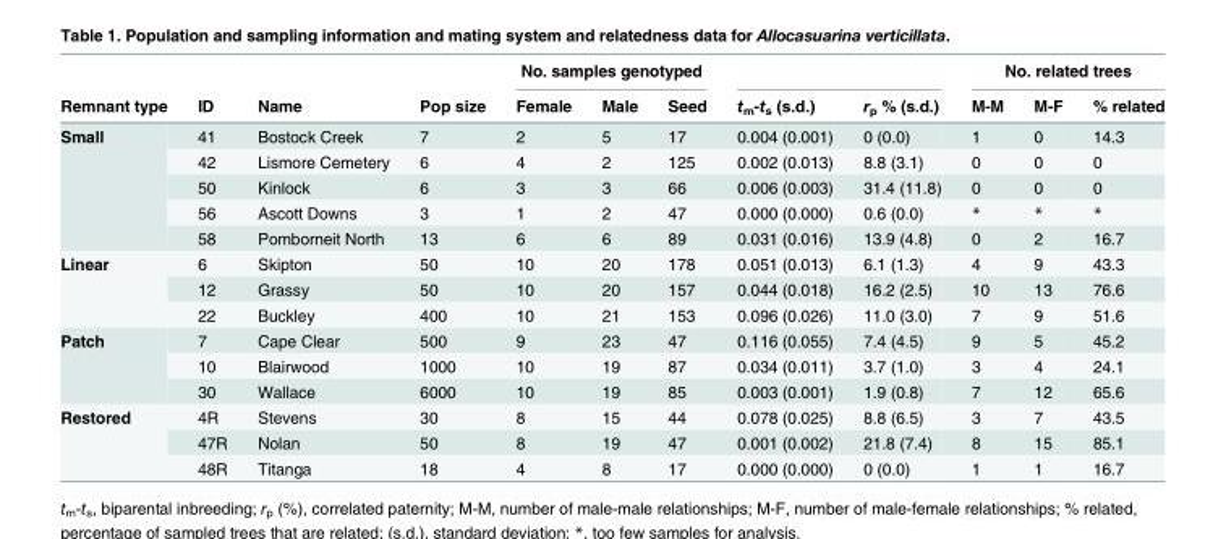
<table><thead><tr><td rowspan="2">Remnant type</td><td rowspan="2">ID</td><td rowspan="2">Name</td><td rowspan="2">Pop size</td><td colspan="3">No. samples genotyped</td><td rowspan="2">t<sub>m</sub>-t<sub>s</sub> (s.d.)</td><td rowspan="2">r<sub>p</sub> % (s.d.)</td><td colspan="3">No. related trees</td></tr><tr><td>Female</td><td>Male</td><td>Seed</td><td>M-M</td><td>M-F</td><td>% related</td></tr></thead><tbody><tr><td rowspan="5">Small</td><td>41</td><td>Bostock Creek</td><td>7</td><td>2</td><td>5</td><td>17</td><td>0.004 (0.001)</td><td>0 (0.0)</td><td>1</td><td>0</td><td>14.3</td></tr><tr><td>42</td><td>Lismore Cemetery</td><td>6</td><td>4</td><td>2</td><td>125</td><td>0.002 (0.013)</td><td>8.8 (3.1)</td><td>0</td><td>0</td><td>0</td></tr><tr><td>50</td><td>Kinlock</td><td>6</td><td>3</td><td>3</td><td>66</td><td>0.006 (0.003)</td><td>31.4 (11.8)</td><td>0</td><td>0</td><td>0</td></tr><tr><td>56</td><td>Ascott Downs</td><td>3</td><td>1</td><td>2</td><td>47</td><td>0.000 (0.000)</td><td>0.6 (0.0)</td><td>*</td><td>*</td><td>*</td></tr><tr><td>58</td><td>Pomborneit North</td><td>13</td><td>6</td><td>6</td><td>89</td><td>0.031 (0.016)</td><td>13.9 (4.8)</td><td>0</td><td>2</td><td>16.7</td></tr><tr><td rowspan="3">Linear</td><td>6</td><td>Skipton</td><td>50</td><td>10</td><td>20</td><td>178</td><td>0.051 (0.013)</td><td>6.1 (1.3)</td><td>4</td><td>9</td><td>43.3</td></tr><tr><td>12</td><td>Grassy</td><td>50</td><td>10</td><td>20</td><td>157</td><td>0.044 (0.018)</td><td>16.2 (2.5)</td><td>10</td><td>13</td><td>76.6</td></tr><tr><td>22</td><td>Buckley</td><td>400</td><td>10</td><td>21</td><td>153</td><td>0.096 (0.026)</td><td>11.0 (3.0)</td><td>7</td><td>9</td><td>51.6</td></tr><tr><td rowspan="3">Patch</td><td>7</td><td>Cape Clear</td><td>500</td><td>9</td><td>23</td><td>47</td><td>0.116 (0.055)</td><td>7.4 (4.5)</td><td>9</td><td>5</td><td>45.2</td></tr><tr><td>10</td><td>Blairwood</td><td>1000</td><td>10</td><td>19</td><td>87</td><td>0.034 (0.011)</td><td>3.7 (1.0)</td><td>3</td><td>4</td><td>24.1</td></tr><tr><td>30</td><td>Wallace</td><td>6000</td><td>10</td><td>19</td><td>85</td><td>0.003 (0.001)</td><td>1.9 (0.8)</td><td>7</td><td>12</td><td>65.6</td></tr><tr><td rowspan="3">Restored</td><td>4R</td><td>Stevens</td><td>30</td><td>8</td><td>15</td><td>44</td><td>0.078 (0.025)</td><td>8.8 (6.5)</td><td>3</td><td>7</td><td>43.5</td></tr><tr><td>47R</td><td>Nolan</td><td>50</td><td>8</td><td>19</td><td>47</td><td>0.001 (0.002)</td><td>21.8 (7.4)</td><td>8</td><td>15</td><td>85.1</td></tr><tr><td>48R</td><td>Titanga</td><td>18</td><td>4</td><td>8</td><td>17</td><td>0.000 (0.000)</td><td>0 (0.0)</td><td>1</td><td>1</td><td>16.7</td></tr></tbody></table>